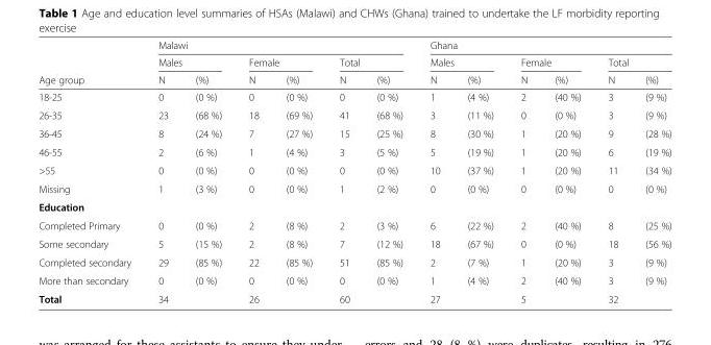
<table><thead><tr><td rowspan="3">Age group</td><td colspan="6">Malawi</td><td colspan="6">Ghana</td></tr><tr><td colspan="2">Males</td><td colspan="2">Female</td><td colspan="2">Total</td><td colspan="2">Males</td><td colspan="2">Female</td><td colspan="2">Total</td></tr><tr><td>N</td><td>(%)</td><td>N</td><td>(%)</td><td>N</td><td>(%)</td><td>N</td><td>(%)</td><td>N</td><td>(%)</td><td>N</td><td>(%)</td></tr></thead><tbody><tr><td>18-25</td><td>0</td><td>(0 %)</td><td>0</td><td>(0 %)</td><td>0</td><td>(0 %)</td><td>1</td><td>(4 %)</td><td>2</td><td>(40 %)</td><td>3</td><td>(9 %)</td></tr><tr><td>26-35</td><td>23</td><td>(68 %)</td><td>18</td><td>(69 %)</td><td>41</td><td>(68 %)</td><td>3</td><td>(11 %)</td><td>0</td><td>(0 %)</td><td>3</td><td>(9 %)</td></tr><tr><td>36-45</td><td>8</td><td>(24 %)</td><td>7</td><td>(27 %)</td><td>15</td><td>(25 %)</td><td>8</td><td>(30 %)</td><td>1</td><td>(20 %)</td><td>9</td><td>(28 %)</td></tr><tr><td>46-55</td><td>2</td><td>(6 %)</td><td>1</td><td>(4 %)</td><td>3</td><td>(5 %)</td><td>5</td><td>(19 %)</td><td>1</td><td>(20 %)</td><td>6</td><td>(19 %)</td></tr><tr><td>&gt;55</td><td>0</td><td>(0 %)</td><td>0</td><td>(0 %)</td><td>0</td><td>(0 %)</td><td>10</td><td>(37 %)</td><td>1</td><td>(20 %)</td><td>11</td><td>(34 %)</td></tr><tr><td>Missing</td><td>1</td><td>(3 %)</td><td>0</td><td>(0 %)</td><td>1</td><td>(2 %)</td><td>0</td><td>(0 %)</td><td>0</td><td>(0 %)</td><td>0</td><td>(0 %)</td></tr><tr><td colspan="13">Education</td></tr><tr><td>Completed Primary</td><td>0</td><td>(0 %)</td><td>2</td><td>(8 %)</td><td>2</td><td>(3 %)</td><td>6</td><td>(22 %)</td><td>2</td><td>(40 %)</td><td>8</td><td>(25 %)</td></tr><tr><td>Some secondary</td><td>5</td><td>(15 %)</td><td>2</td><td>(8 %)</td><td>7</td><td>(12 %)</td><td>18</td><td>(67 %)</td><td>0</td><td>(0 %)</td><td>18</td><td>(56 %)</td></tr><tr><td>Completed secondary</td><td>29</td><td>(85 %)</td><td>22</td><td>(85 %)</td><td>51</td><td>(85 %)</td><td>2</td><td>(7 %)</td><td>1</td><td>(20 %)</td><td>3</td><td>(9 %)</td></tr><tr><td>More than secondary</td><td>0</td><td>(0 %)</td><td>0</td><td>(0 %)</td><td>0</td><td>(0 %)</td><td>1</td><td>(4 %)</td><td>2</td><td>(40 %)</td><td>3</td><td>(9 %)</td></tr><tr><td>Total</td><td>34</td><td></td><td>26</td><td></td><td>60</td><td></td><td>27</td><td></td><td>5</td><td></td><td>32</td><td></td></tr></tbody></table>